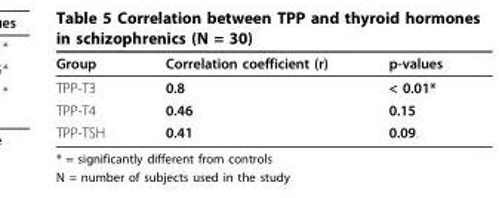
<table><thead><tr><td>Group</td><td>Correlation coefficient (r)</td><td>p-values</td></tr></thead><tbody><tr><td>TPP-T3</td><td>0.8</td><td>&lt; 0.01*</td></tr><tr><td>TPP-T4</td><td>0.46</td><td>0.15</td></tr><tr><td>TPP-TSH</td><td>0.41</td><td>0.09.</td></tr></tbody></table>